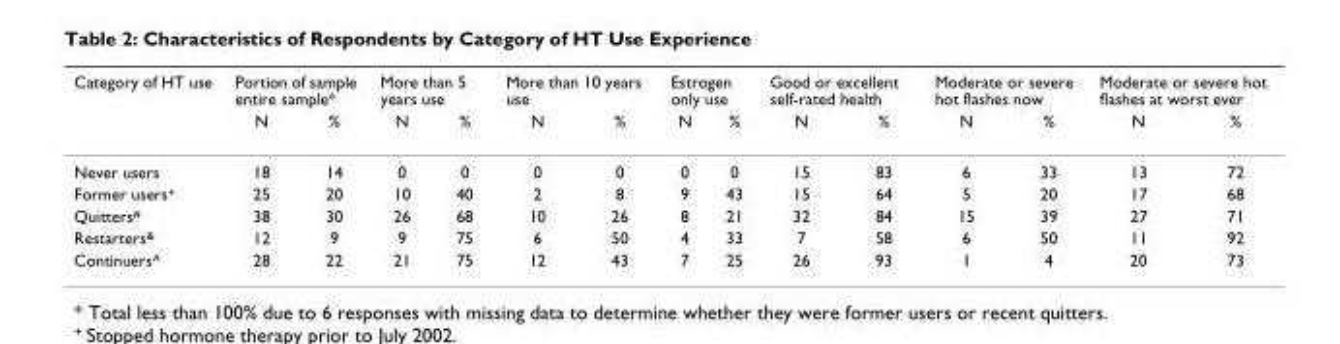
<table><thead><tr><td rowspan="2">Category of HT use</td><td colspan="2">Portion of sample entire sample*</td><td colspan="2">More than 5 years use</td><td colspan="2">More than 10 years use</td><td colspan="2">Estrogen only use</td><td colspan="2">Good or excellent self-rated health</td><td colspan="2">Moderate or severe hot flashes now</td><td colspan="2">Moderate or severe hot flashes at worst ever</td></tr><tr><td>N</td><td>%</td><td>N</td><td>%</td><td>N</td><td>%</td><td>N</td><td>%</td><td>N</td><td>%</td><td>N</td><td>%</td><td>N</td><td>%</td></tr></thead><tbody><tr><td>Never users</td><td>18</td><td>14</td><td>0</td><td>0</td><td>0</td><td>0</td><td>0</td><td>0</td><td>15</td><td>83</td><td>6</td><td>33</td><td>13</td><td>72</td></tr><tr><td>Former users<sup>+</sup></td><td>25</td><td>20</td><td>10</td><td>40</td><td>2</td><td>8</td><td>9</td><td>43</td><td>15</td><td>64</td><td>5</td><td>20</td><td>17</td><td>68</td></tr><tr><td>Quitters<sup>#</sup></td><td>38</td><td>30</td><td>26</td><td>68</td><td>10</td><td>26</td><td>8</td><td>21</td><td>32</td><td>84</td><td>15</td><td>39</td><td>27</td><td>71</td></tr><tr><td>Restarters<sup>&amp;</sup></td><td>12</td><td>9</td><td>9</td><td>75</td><td>6</td><td>50</td><td>4</td><td>33</td><td>7</td><td>58</td><td>6</td><td>50</td><td>11</td><td>92</td></tr><tr><td>Continuers^</td><td>28</td><td>22</td><td>21</td><td>75</td><td>12</td><td>43</td><td>7</td><td>25</td><td>26</td><td>93</td><td>1</td><td>4</td><td>20</td><td>73</td></tr></tbody></table>